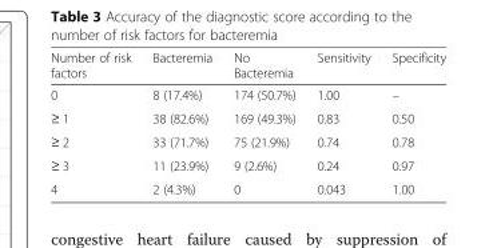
<table><thead><tr><td>Number of risk factors</td><td>Bacteremia</td><td>No Bacteremia</td><td>Sensitivity</td><td>Specificity</td></tr></thead><tbody><tr><td>0</td><td>8 (17.4%)</td><td>174 (50.7%)</td><td>1.00</td><td>–</td></tr><tr><td>≥ 1</td><td>38 (82.6%)</td><td>169 (49.3%)</td><td>0.83</td><td>0.50</td></tr><tr><td>≥ 2</td><td>33 (71.7%)</td><td>75 (21.9%)</td><td>0.74</td><td>0.78</td></tr><tr><td>≥ 3</td><td>11 (23.9%)</td><td>9 (2.6%)</td><td>0.24</td><td>0.97</td></tr><tr><td>4</td><td>2 (4.3%)</td><td>0</td><td>0.043</td><td>1.00</td></tr></tbody></table>